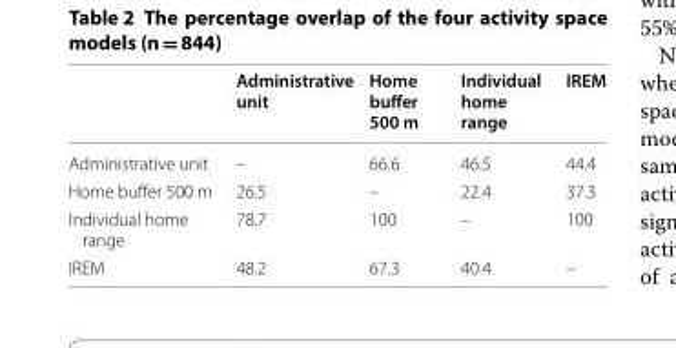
<table><thead><tr><td></td><td>Administrative unit</td><td>Home buffer 500 m</td><td>Individual home range</td><td>IREM</td></tr></thead><tbody><tr><td>Administrative unit</td><td>–</td><td>66.6</td><td>46.5</td><td>44.4</td></tr><tr><td>Home buffer 500 m</td><td>26.5</td><td>–</td><td>22.4</td><td>37.3</td></tr><tr><td>Individual home range</td><td>78.7</td><td>100</td><td>–</td><td>100</td></tr><tr><td>IREM</td><td>48.2</td><td>67.3</td><td>40.4</td><td>–</td></tr></tbody></table>